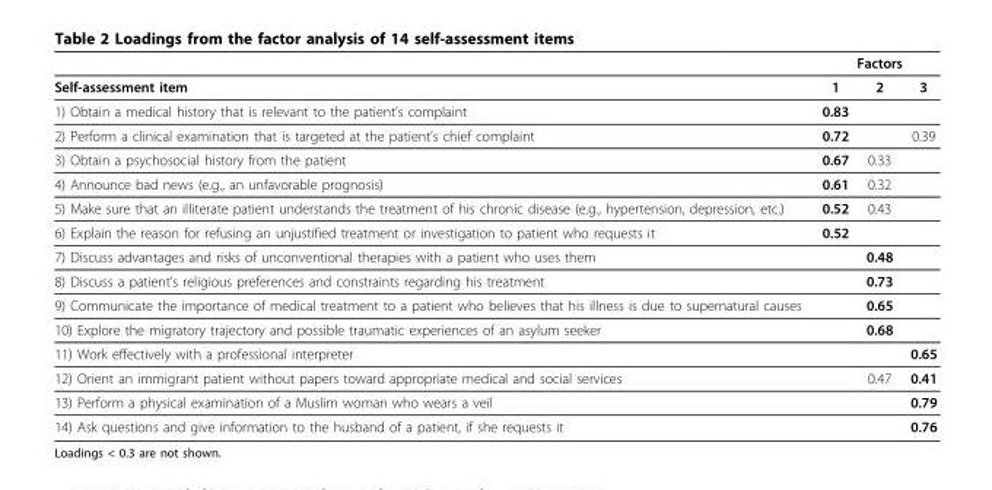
<table><thead><tr><td rowspan="2">Self-assessment item</td><td colspan="3">Factors</td></tr><tr><td>1</td><td>2</td><td>3</td></tr></thead><tbody><tr><td>1) Obtain a medical history that is relevant to the patient’s complaint</td><td>0.83</td><td></td><td></td></tr><tr><td>2) Perform a clinical examination that is targeted at the patient’s chief complaint</td><td>0.72</td><td></td><td>0.39</td></tr><tr><td>3) Obtain a psychosocial history from the patient</td><td>0.67</td><td>0.33</td><td></td></tr><tr><td>4) Announce bad news (e.g., an unfavorable prognosis)</td><td>0.61</td><td>0.32</td><td></td></tr><tr><td>5) Make sure that an illiterate patient understands the treatment of his chronic disease (e.g., hypertension, depression, etc.)</td><td>0.52</td><td>0.43</td><td></td></tr><tr><td>6) Explain the reason for refusing an unjustified treatment or investigation to patient who requests it</td><td>0.52</td><td></td><td></td></tr><tr><td>7) Discuss advantages and risks of unconventional therapies with a patient who uses them</td><td></td><td>0.48</td><td></td></tr><tr><td>8) Discuss a patient’s religious preferences and constraints regarding his treatment</td><td></td><td>0.73</td><td></td></tr><tr><td>9) Communicate the importance of medical treatment to a patient who believes that his illness is due to supernatural causes</td><td></td><td>0.65</td><td></td></tr><tr><td>10) Explore the migratory trajectory and possible traumatic experiences of an asylum seeker</td><td></td><td>0.68</td><td></td></tr><tr><td>11) Work effectively with a professional interpreter</td><td></td><td></td><td>0.65</td></tr><tr><td>12) Orient an immigrant patient without papers toward appropriate medical and social services</td><td></td><td>0.47</td><td>0.41</td></tr><tr><td>13) Perform a physical examination of a Muslim woman who wears a veil</td><td></td><td></td><td>0.79</td></tr><tr><td>14) Ask questions and give information to the husband of a patient, if she requests it</td><td></td><td></td><td>0.76</td></tr></tbody></table>